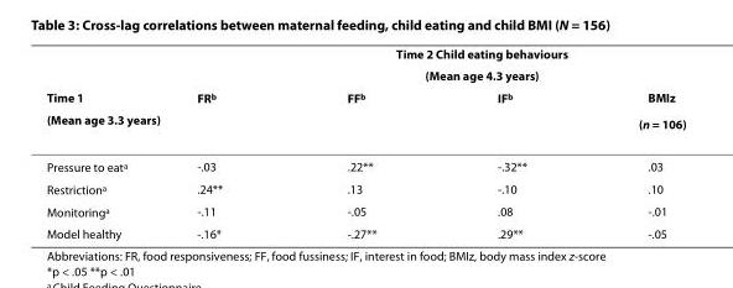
<table><thead><tr><td rowspan="4">Time 1 (Mean age 3.3 years)</td><td rowspan="2" colspan="4">Time 2 Child eating behaviours (Mean age 4.3 years)</td></tr><tr></tr><tr><td rowspan="2">FR<sup>b</sup></td><td rowspan="2">FF<sup>b</sup></td><td rowspan="2">IF<sup>b</sup></td><td rowspan="2">BMIz (n = 106)</td></tr><tr></tr></thead><tbody><tr><td>Pressure to eat<sup>a</sup></td><td>-.03</td><td>.22**</td><td>-.32**</td><td>.03</td></tr><tr><td>Restriction<sup>a</sup></td><td>.24**</td><td>.13</td><td>-.10</td><td>.10</td></tr><tr><td>Monitoring<sup>a</sup></td><td>-.11</td><td>-.05</td><td>.08</td><td>-.01</td></tr><tr><td>Model healthy</td><td>-.16*</td><td>-.27**</td><td>.29**</td><td>-.05</td></tr></tbody></table>